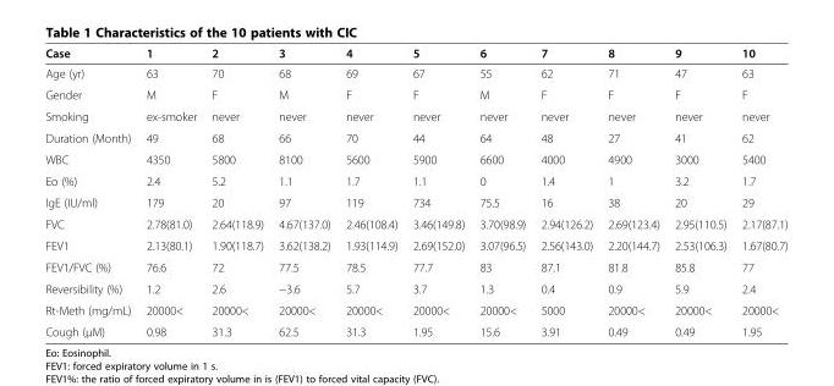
<table><thead><tr><td>Case</td><td>1</td><td>2</td><td>3</td><td>4</td><td>5</td><td>6</td><td>7</td><td>8</td><td>9</td><td>10</td></tr></thead><tbody><tr><td>Age (yr)</td><td>63</td><td>70</td><td>68</td><td>69</td><td>67</td><td>55</td><td>62</td><td>71</td><td>47</td><td>63</td></tr><tr><td>Gender</td><td>M</td><td>F</td><td>M</td><td>F</td><td>F</td><td>M</td><td>F</td><td>F</td><td>F</td><td>F</td></tr><tr><td>Smoking</td><td>ex-smoker</td><td>never</td><td>never</td><td>never</td><td>never</td><td>never</td><td>never</td><td>never</td><td>never</td><td>never</td></tr><tr><td>Duration (Month)</td><td>49</td><td>68</td><td>66</td><td>70</td><td>44</td><td>64</td><td>48</td><td>27</td><td>41</td><td>62</td></tr><tr><td>WBC</td><td>4350</td><td>5800</td><td>8100</td><td>5600</td><td>5900</td><td>6600</td><td>4000</td><td>4900</td><td>3000</td><td>5400</td></tr><tr><td>Eo (%)</td><td>2.4</td><td>5.2</td><td>1.1</td><td>1.7</td><td>1.1</td><td>0</td><td>1.4</td><td>1</td><td>3.2</td><td>1.7</td></tr><tr><td>IgE (IU/ml)</td><td>179</td><td>20</td><td>97</td><td>119</td><td>734</td><td>75.5</td><td>16</td><td>38</td><td>20</td><td>29</td></tr><tr><td>FVC</td><td>2.78(81.0)</td><td>2.64(118.9)</td><td>4.67(137.0)</td><td>2.46(108.4)</td><td>3.46(149.8)</td><td>3.70(98.9)</td><td>2.94(126.2)</td><td>2.69(123.4)</td><td>2.95(110.5)</td><td>2.17(87.1)</td></tr><tr><td>FEV1</td><td>2.13(80.1)</td><td>1.90(118.7)</td><td>3.62(138.2)</td><td>1.93(114.9)</td><td>2.69(152.0)</td><td>3.07(96.5)</td><td>2.56(143.0)</td><td>2.20(144.7)</td><td>2.53(106.3)</td><td>1.67(80.7)</td></tr><tr><td>FEV1/FVC (%)</td><td>76.6</td><td>72</td><td>77.5</td><td>78.5</td><td>77.7</td><td>83</td><td>87.1</td><td>81.8</td><td>85.8</td><td>77</td></tr><tr><td>Reversibility (%)</td><td>1.2</td><td>2.6</td><td>−3.6</td><td>5.7</td><td>3.7</td><td>1.3</td><td>0.4</td><td>0.9</td><td>5.9</td><td>2.4</td></tr><tr><td>Rt-Meth (mg/mL)</td><td>20000&lt;</td><td>20000&lt;</td><td>20000&lt;</td><td>20000&lt;</td><td>20000&lt;</td><td>20000&lt;</td><td>5000</td><td>20000&lt;</td><td>20000&lt;</td><td>20000&lt;</td></tr><tr><td>Cough (μM)</td><td>0.98</td><td>31.3</td><td>62.5</td><td>31.3</td><td>1.95</td><td>15.6</td><td>3.91</td><td>0.49</td><td>0.49</td><td>1.95</td></tr></tbody></table>